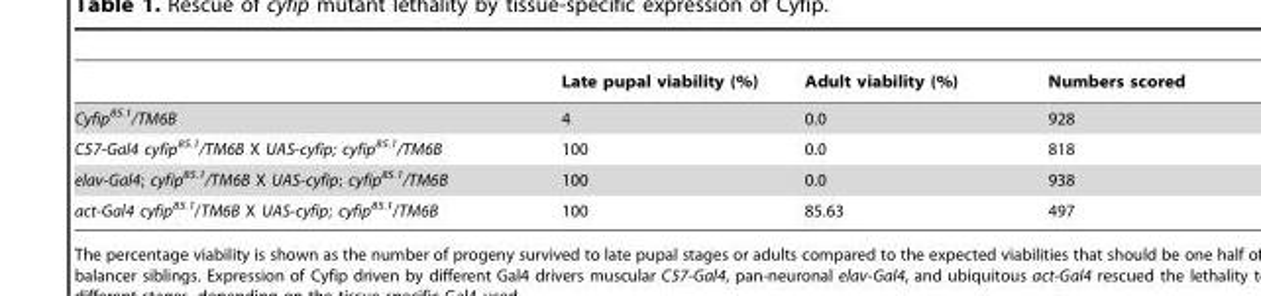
<table><thead><tr><td></td><td>Late pupal viability (%)</td><td>Adult viability (%)</td><td>Numbers scored</td></tr></thead><tbody><tr><td>Cyfip<sup>85.1</sup>/TM6B</td><td>4</td><td>0.0</td><td>928</td></tr><tr><td>C57-Gal4 cyfip<sup>85.1</sup>/TM6B X UAS-cyfip; cyfip<sup>85.1</sup>/TM6B</td><td>100</td><td>0.0</td><td>818</td></tr><tr><td>elav-Gal4; cyfip<sup>85.1</sup>/TM6B X UAS-cyfip; cyfip<sup>85.1</sup>/TM6B</td><td>100</td><td>0.0</td><td>938</td></tr><tr><td>act-Gal4 cyfip<sup>85.1</sup>/TM6B X UAS-cyfip; cyfip<sup>85.1</sup>/TM6B</td><td>100</td><td>85.63</td><td>497</td></tr></tbody></table>